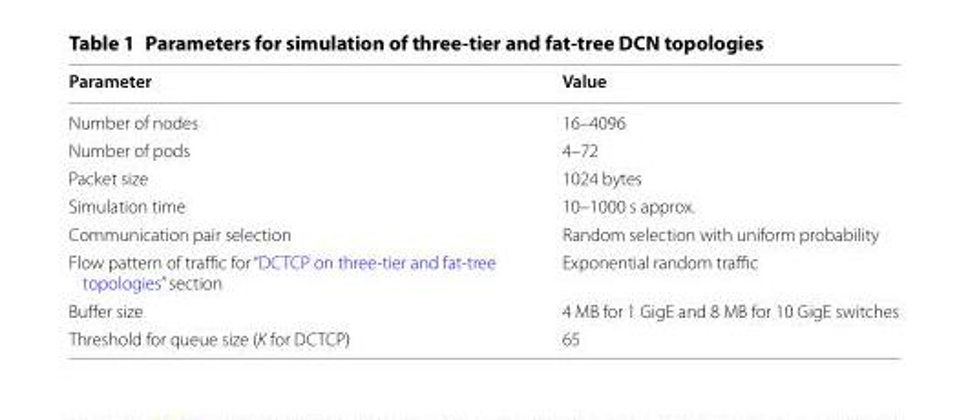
<table><thead><tr><td>Parameter</td><td>Value</td></tr></thead><tbody><tr><td>Number of nodes</td><td>16–4096</td></tr><tr><td>Number of pods</td><td>4–72</td></tr><tr><td>Packet size</td><td>1024 bytes</td></tr><tr><td>Simulation time</td><td>10–1000 s approx.</td></tr><tr><td>Communication pair selection</td><td>Random selection with uniform probability</td></tr><tr><td>Flow pattern of traffic for “DCTCP on three-tier and fat-tree topologies” section</td><td>Exponential random traffic</td></tr><tr><td>Buffer size</td><td>4 MB for 1 GigE and 8 MB for 10 GigE switches</td></tr><tr><td>Threshold for queue size (K for DCTCP)</td><td>65</td></tr></tbody></table>